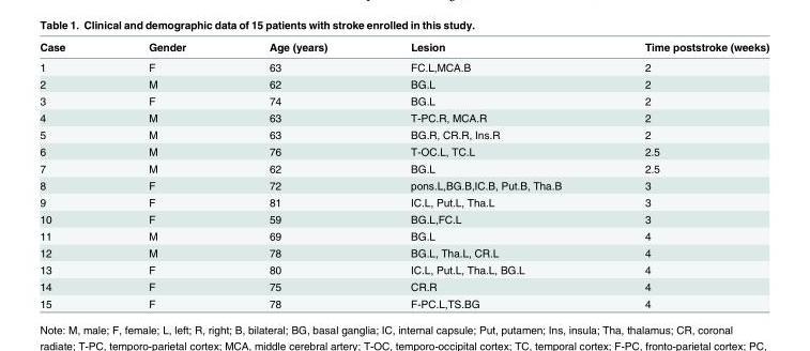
<table><thead><tr><td>Case</td><td>Gender</td><td>Age (years)</td><td>Lesion</td><td>Time poststroke (weeks)</td></tr></thead><tbody><tr><td>1</td><td>F</td><td>63</td><td>FC.L,MCA.B</td><td>2</td></tr><tr><td>2</td><td>M</td><td>62</td><td>BG.L</td><td>2</td></tr><tr><td>3</td><td>F</td><td>74</td><td>BG.L</td><td>2</td></tr><tr><td>4</td><td>M</td><td>63</td><td>T-PC.R, MCA.R</td><td>2</td></tr><tr><td>5</td><td>M</td><td>63</td><td>BG.R, CR.R, Ins.R</td><td>2</td></tr><tr><td>6</td><td>M</td><td>76</td><td>T-OC.L, TC.L</td><td>2.5</td></tr><tr><td>7</td><td>M</td><td>62</td><td>BG.L</td><td>2.5</td></tr><tr><td>8</td><td>F</td><td>72</td><td>pons.L,BG.B,IC.B, Put.B, Tha.B</td><td>3</td></tr><tr><td>9</td><td>F</td><td>81</td><td>IC.L, Put.L, Tha.L</td><td>3</td></tr><tr><td>10</td><td>F</td><td>59</td><td>BG.L,FC.L</td><td>3</td></tr><tr><td>11</td><td>M</td><td>69</td><td>BG.L</td><td>4</td></tr><tr><td>12</td><td>M</td><td>78</td><td>BG.L, Tha.L, CR.L</td><td>4</td></tr><tr><td>13</td><td>F</td><td>80</td><td>IC.L, Put.L, Tha.L, BG.L</td><td>4</td></tr><tr><td>14</td><td>F</td><td>75</td><td>CR.R</td><td>4</td></tr><tr><td>15</td><td>F</td><td>78</td><td>F-PC.L,TS.BG</td><td>4</td></tr></tbody></table>